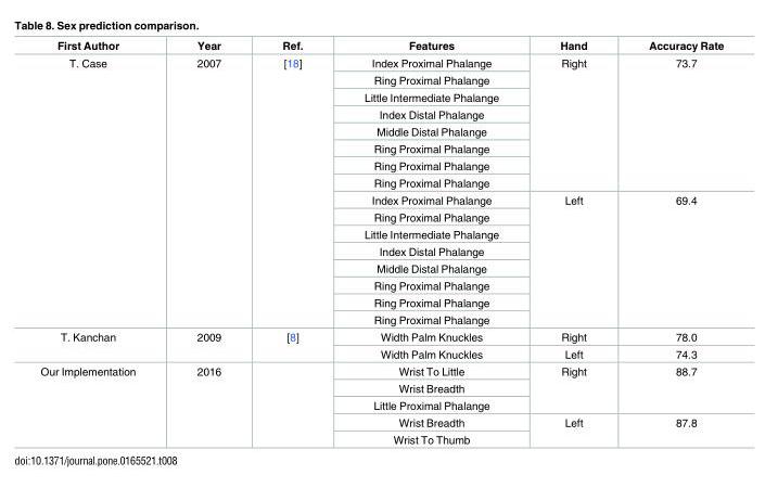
<table><thead><tr><td>First Author</td><td>Year</td><td>Ref.</td><td>Features</td><td>Hand</td><td>Accuracy Rate</td></tr></thead><tbody><tr><td rowspan="16">T. Case</td><td rowspan="16">2007</td><td rowspan="16">[18]</td><td>Index Proximal Phalange</td><td rowspan="8">Right</td><td rowspan="8">73.7</td></tr><tr><td>Ring Proximal Phalange</td></tr><tr><td>Little Intermediate Phalange</td></tr><tr><td>Index Distal Phalange</td></tr><tr><td>Middle Distal Phalange</td></tr><tr><td>Ring Proximal Phalange</td></tr><tr><td>Ring Proximal Phalange</td></tr><tr><td>Ring Proximal Phalange</td></tr><tr><td>Index Proximal Phalange</td><td rowspan="8">Left</td><td rowspan="8">69.4</td></tr><tr><td>Ring Proximal Phalange</td></tr><tr><td>Little Intermediate Phalange</td></tr><tr><td>Index Distal Phalange</td></tr><tr><td>Middle Distal Phalange</td></tr><tr><td>Ring Proximal Phalange</td></tr><tr><td>Ring Proximal Phalange</td></tr><tr><td>Ring Proximal Phalange</td></tr><tr><td rowspan="2">T. Kanchan</td><td rowspan="2">2009</td><td rowspan="2">[8]</td><td>Width Palm Knuckles</td><td>Right</td><td>78.0</td></tr><tr><td>Width Palm Knuckles</td><td>Left</td><td>74.3</td></tr><tr><td rowspan="5">Our Implementation</td><td rowspan="5">2016</td><td rowspan="5"></td><td>Wrist To Little</td><td rowspan="3">Right</td><td rowspan="3">88.7</td></tr><tr><td>Wrist Breadth</td></tr><tr><td>Little Proximal Phalange</td></tr><tr><td>Wrist Breadth</td><td rowspan="2">Left</td><td rowspan="2">87.8</td></tr><tr><td>Wrist To Thumb</td></tr></tbody></table>